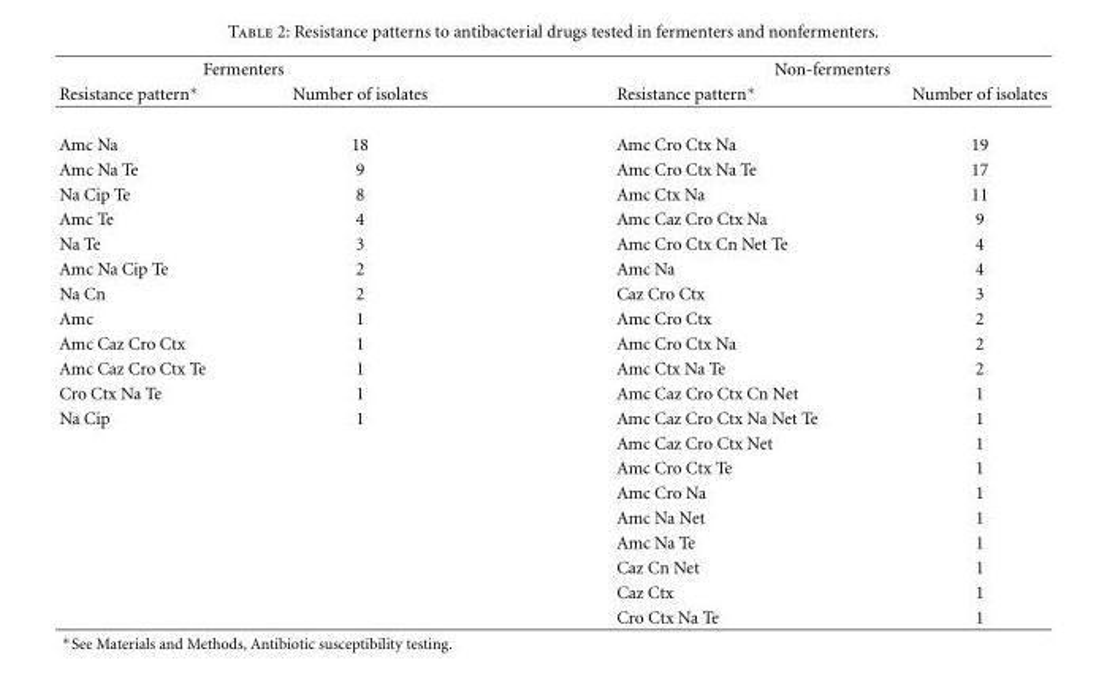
<table><thead><tr><td colspan="2">Fermenters</td><td colspan="2">Non-fermenters</td></tr><tr><td>Resistance pattern∗</td><td>Number of isolates</td><td>Resistance pattern∗</td><td>Number of isolates</td></tr></thead><tbody><tr><td>Amc Na</td><td>18</td><td>Amc Cro Ctx Na</td><td>19</td></tr><tr><td>Amc Na Te</td><td>9</td><td>Amc Cro Ctx Na Te</td><td>17</td></tr><tr><td>Na Cip Te</td><td>8</td><td>Amc Ctx Na</td><td>11</td></tr><tr><td>Amc Te</td><td>4</td><td>Amc Caz Cro Ctx Na</td><td>9</td></tr><tr><td>Na Te</td><td>3</td><td>Amc Cro Ctx Cn Net Te</td><td>4</td></tr><tr><td>Amc Na Cip Te</td><td>2</td><td>Amc Na</td><td>4</td></tr><tr><td>Na Cn</td><td>2</td><td>Caz Cro Ctx</td><td>3</td></tr><tr><td>Amc</td><td>1</td><td>Amc Cro Ctx</td><td>2</td></tr><tr><td>Amc Caz Cro Ctx</td><td>1</td><td>Amc Cro Ctx Na</td><td>2</td></tr><tr><td>Amc Caz Cro Ctx Te</td><td>1</td><td>Amc Ctx Na Te</td><td>2</td></tr><tr><td>Cro Ctx Na Te</td><td>1</td><td>Amc Caz Cro Ctx Cn Net</td><td>1</td></tr><tr><td rowspan="9">Na Cip</td><td>1</td><td>Amc Caz Cro Ctx Na Net Te</td><td>1</td></tr><tr><td></td><td>Amc Caz Cro Ctx Net</td><td>1</td></tr><tr><td></td><td>Amc Cro Ctx Te</td><td>1</td></tr><tr><td></td><td>Amc Cro Na</td><td>1</td></tr><tr><td></td><td>Amc Na Net</td><td>1</td></tr><tr><td></td><td>Amc Na Te</td><td>1</td></tr><tr><td></td><td>Caz Cn Net</td><td>1</td></tr><tr><td></td><td>Caz Ctx</td><td>1</td></tr><tr><td></td><td>Cro Ctx Na Te</td><td>1</td></tr></tbody></table>